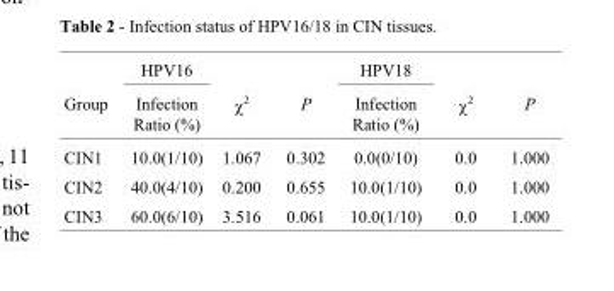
<table><thead><tr><td rowspan="2">Group</td><td rowspan="2">HPV16 Infection Ratio (%)</td><td rowspan="2">χ<sup>2</sup></td><td rowspan="2">P</td><td rowspan="2">HPV18 Infection Ratio (%)</td><td rowspan="2">χ<sup>2</sup></td><td rowspan="2">P</td></tr><tr></tr></thead><tbody><tr><td>CIN1</td><td>10.0(1/10)</td><td>1.067</td><td>0.302</td><td>0.0(0/10)</td><td>0.0</td><td>1.000</td></tr><tr><td>CIN2</td><td>40.0(4/10)</td><td>0.200</td><td>0.655</td><td>10.0(1/10)</td><td>0.0</td><td>1.000</td></tr><tr><td>CIN3</td><td>60.0(6/10)</td><td>3.516</td><td>0.061</td><td>10.0(1/10)</td><td>0.0</td><td>1.000</td></tr></tbody></table>